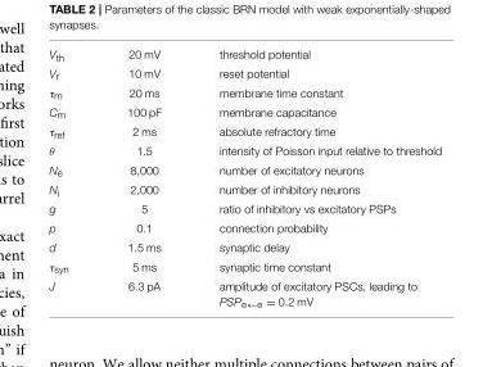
<table><tbody><tr><td>V<sub>th</sub></td><td>20 mV</td><td>threshold potential</td></tr><tr><td>V<sub>r</sub></td><td>10 mV</td><td>reset potential</td></tr><tr><td>τ<sub>m</sub></td><td>20 ms</td><td>membrane time constant</td></tr><tr><td>C<sub>m</sub></td><td>100 pF</td><td>membrane capacitance</td></tr><tr><td>τ<sub>ref</sub></td><td>2 ms</td><td>absolute refractory time</td></tr><tr><td>θ</td><td>1.5</td><td>intensity of Poisson input relative to threshold</td></tr><tr><td>N<sub>e</sub></td><td>8,000</td><td>number of excitatory neurons</td></tr><tr><td>N<sub>i</sub></td><td>2,000</td><td>number of inhibitory neurons</td></tr><tr><td>g</td><td>5</td><td>ratio of inhibitory vs excitatory PSPs</td></tr><tr><td>p</td><td>0.1</td><td>connection probability</td></tr><tr><td>d</td><td>1.5 ms</td><td>synaptic delay</td></tr><tr><td>τ<sub>syn</sub></td><td>5 ms</td><td>synaptic time constant</td></tr><tr><td>J</td><td>6.3 pA</td><td>amplitude of excitatory PSCs, leading to PSP<sub>e←e</sub> = 0.2 mV</td></tr></tbody></table>